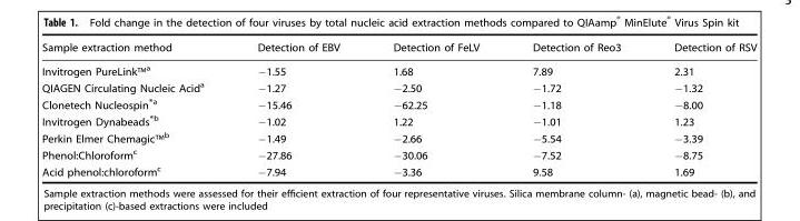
<table><thead><tr><td>Sample extraction method</td><td>Detection of EBV</td><td>Detection of FeLV</td><td>Detection of Reo3</td><td>Detection of RSV</td></tr></thead><tbody><tr><td>Invitrogen PureLink™<sup>a</sup></td><td>−1.55</td><td>1.68</td><td>7.89</td><td>2.31</td></tr><tr><td>QIAGEN Circulating Nucleic Acid<sup>a</sup></td><td>−1.27</td><td>−2.50</td><td>−1.72</td><td>−1.32</td></tr><tr><td>Clonetech Nucleospin<sup>®a</sup></td><td>−15.46</td><td>−62.25</td><td>−1.18</td><td>−8.00</td></tr><tr><td>Invitrogen Dynabeads<sup>®b</sup></td><td>−1.02</td><td>1.22</td><td>−1.01</td><td>1.23</td></tr><tr><td>Perkin Elmer Chemagic™<sup>b</sup></td><td>−1.49</td><td>−2.66</td><td>−5.54</td><td>−3.39</td></tr><tr><td>Phenol:Chloroform<sup>c</sup></td><td>−27.86</td><td>−30.06</td><td>−7.52</td><td>−8.75</td></tr><tr><td>Acid phenol:chloroform<sup>c</sup></td><td>−7.94</td><td>−3.36</td><td>9.58</td><td>1.69</td></tr></tbody></table>